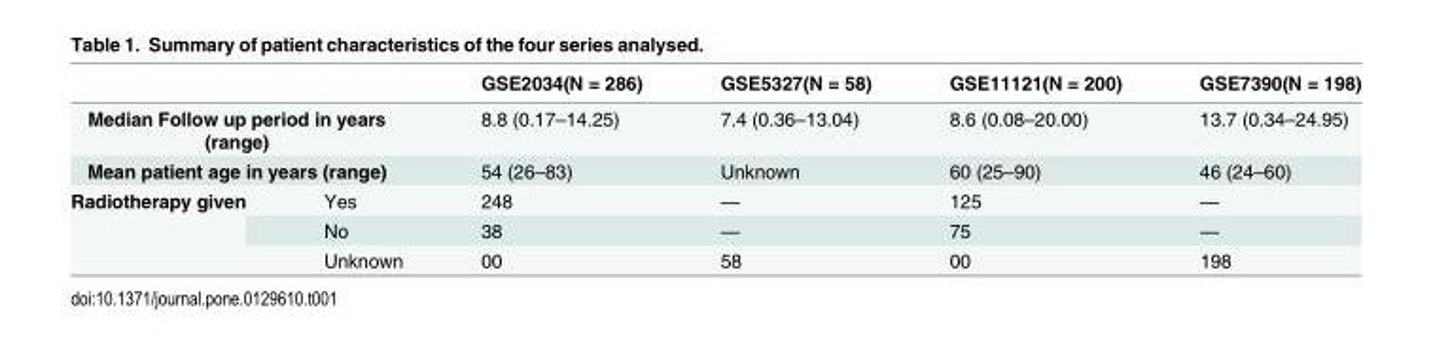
<table><thead><tr><td></td><td></td><td>GSE2034(N = 286)</td><td>GSE5327(N = 58)</td><td>GSE11121(N = 200)</td><td>GSE7390(N = 198)</td></tr></thead><tbody><tr><td colspan="2">Median Follow up period in years (range)</td><td>8.8 (0.17–14.25)</td><td>7.4 (0.36–13.04)</td><td>8.6 (0.08–20.00)</td><td>13.7 (0.34–24.95)</td></tr><tr><td colspan="2">Mean patient age in years (range)</td><td>54 (26–83)</td><td>Unknown</td><td>60 (25–90)</td><td>46 (24–60)</td></tr><tr><td rowspan="3">Radiotherapy given</td><td>Yes</td><td>248</td><td>—</td><td>125</td><td>—</td></tr><tr><td>No</td><td>38</td><td>—</td><td>75</td><td>—</td></tr><tr><td>Unknown</td><td>00</td><td>58</td><td>00</td><td>198</td></tr></tbody></table>